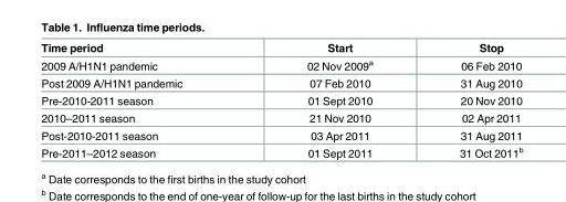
<table><thead><tr><td>Time period</td><td>Start</td><td>Stop</td></tr></thead><tbody><tr><td>2009 A/H1N1 pandemic</td><td>02 Nov 2009<sup>a</sup></td><td>06 Feb 2010</td></tr><tr><td>Post 2009 A/H1N1 pandemic</td><td>07 Feb 2010</td><td>31 Aug 2010</td></tr><tr><td>Pre-2010-2011 season</td><td>01 Sept 2010</td><td>20 Nov 2010</td></tr><tr><td>2010–2011 season</td><td>21 Nov 2010</td><td>02 Apr 2011</td></tr><tr><td>Post-2010-2011 season</td><td>03 Apr 2011</td><td>31 Aug 2011</td></tr><tr><td>Pre-2011–2012 season</td><td>01 Sept 2011</td><td>31 Oct 2011<sup>b</sup></td></tr></tbody></table>